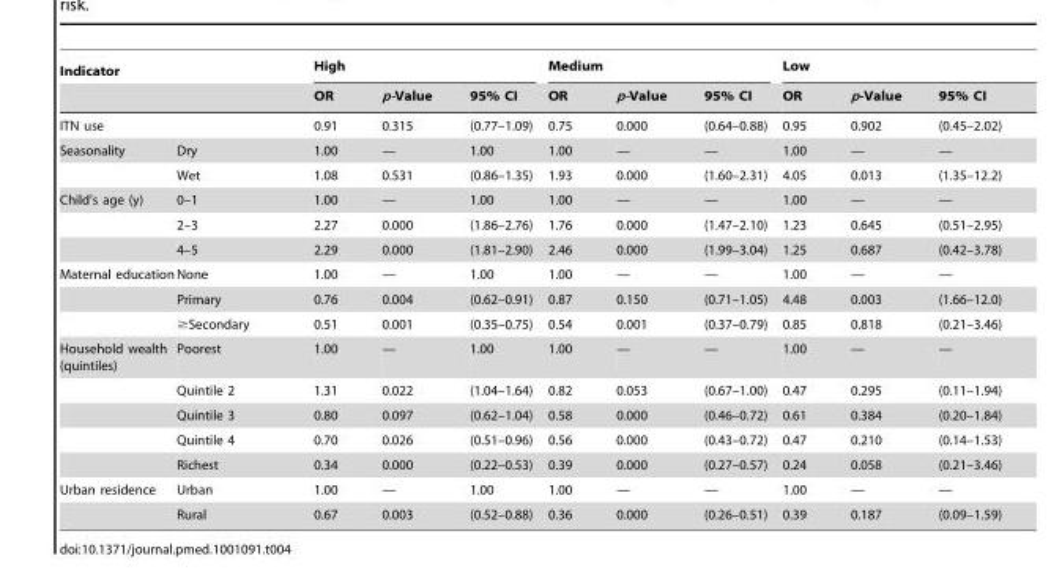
<table><thead><tr><td colspan="2">Indicator</td><td colspan="3">High</td><td colspan="3">Medium</td><td colspan="3">Low</td></tr><tr><td></td><td></td><td>OR</td><td>p-Value</td><td>95% CI</td><td>OR</td><td>p-Value</td><td>95% CI</td><td>OR</td><td>p-Value</td><td>95% CI</td></tr></thead><tbody><tr><td>ITN use</td><td></td><td>0.91</td><td>0.315</td><td>(0.77–1.09)</td><td>0.75</td><td>0.000</td><td>(0.64–0.88)</td><td>0.95</td><td>0.902</td><td>(0.45–2.02)</td></tr><tr><td rowspan="2">Seasonality</td><td>Dry</td><td>1.00</td><td>—</td><td>1.00</td><td>1.00</td><td>—</td><td>—</td><td>1.00</td><td>—</td><td>—</td></tr><tr><td>Wet</td><td>1.08</td><td>0.531</td><td>(0.86–1.35)</td><td>1.93</td><td>0.000</td><td>(1.60–2.31)</td><td>4.05</td><td>0.013</td><td>(1.35–12.2)</td></tr><tr><td rowspan="3">Child’s age (y)</td><td>0–1</td><td>1.00</td><td>—</td><td>1.00</td><td>1.00</td><td>—</td><td>—</td><td>1.00</td><td>—</td><td>—</td></tr><tr><td>2–3</td><td>2.27</td><td>0.000</td><td>(1.86–2.76)</td><td>1.76</td><td>0.000</td><td>(1.47–2.10)</td><td>1.23</td><td>0.645</td><td>(0.51–2.95)</td></tr><tr><td>4–5</td><td>2.29</td><td>0.000</td><td>(1.81–2.90)</td><td>2.46</td><td>0.000</td><td>(1.99–3.04)</td><td>1.25</td><td>0.687</td><td>(0.42–3.78)</td></tr><tr><td rowspan="3">Maternal education</td><td>None</td><td>1.00</td><td>—</td><td>1.00</td><td>1.00</td><td>—</td><td>—</td><td>1.00</td><td>—</td><td>—</td></tr><tr><td>Primary</td><td>0.76</td><td>0.004</td><td>(0.62–0.91)</td><td>0.87</td><td>0.150</td><td>(0.71–1.05)</td><td>4.48</td><td>0.003</td><td>(1.66–12.0)</td></tr><tr><td>≥Secondary</td><td>0.51</td><td>0.001</td><td>(0.35–0.75)</td><td>0.54</td><td>0.001</td><td>(0.37–0.79)</td><td>0.85</td><td>0.818</td><td>(0.21–3.46)</td></tr><tr><td rowspan="5">Household wealth (quintiles)</td><td>Poorest</td><td>1.00</td><td>—</td><td>1.00</td><td>1.00</td><td>—</td><td>—</td><td>1.00</td><td>—</td><td>—</td></tr><tr><td>Quintile 2</td><td>1.31</td><td>0.022</td><td>(1.04–1.64)</td><td>0.82</td><td>0.053</td><td>(0.67–1.00)</td><td>0.47</td><td>0.295</td><td>(0.11–1.94)</td></tr><tr><td>Quintile 3</td><td>0.80</td><td>0.097</td><td>(0.62–1.04)</td><td>0.58</td><td>0.000</td><td>(0.46–0.72)</td><td>0.61</td><td>0.384</td><td>(0.20–1.84)</td></tr><tr><td>Quintile 4</td><td>0.70</td><td>0.026</td><td>(0.51–0.96)</td><td>0.56</td><td>0.000</td><td>(0.43–0.72)</td><td>0.47</td><td>0.210</td><td>(0.14–1.53)</td></tr><tr><td>Richest</td><td>0.34</td><td>0.000</td><td>(0.22–0.53)</td><td>0.39</td><td>0.000</td><td>(0.27–0.57)</td><td>0.24</td><td>0.058</td><td>(0.21–3.46)</td></tr><tr><td rowspan="2">Urban residence</td><td>Urban</td><td>1.00</td><td>—</td><td>1.00</td><td>1.00</td><td>—</td><td>—</td><td>1.00</td><td>—</td><td>—</td></tr><tr><td>Rural</td><td>0.67</td><td>0.003</td><td>(0.52–0.88)</td><td>0.36</td><td>0.000</td><td>(0.26–0.51)</td><td>0.39</td><td>0.187</td><td>(0.09–1.59)</td></tr></tbody></table>